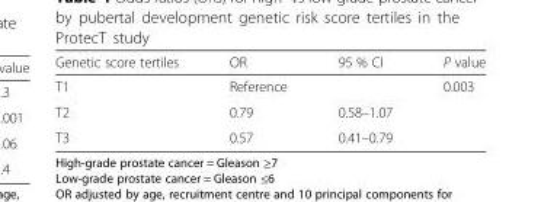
<table><thead><tr><td>Genetic score tertiles</td><td>OR</td><td>95 % CI</td><td>P value</td></tr></thead><tbody><tr><td>T1</td><td>Reference</td><td></td><td>0.003</td></tr><tr><td>T2</td><td>0.79</td><td>0.58–1.07</td><td></td></tr><tr><td>T3</td><td>0.57</td><td>0.41–0.79</td><td></td></tr></tbody></table>